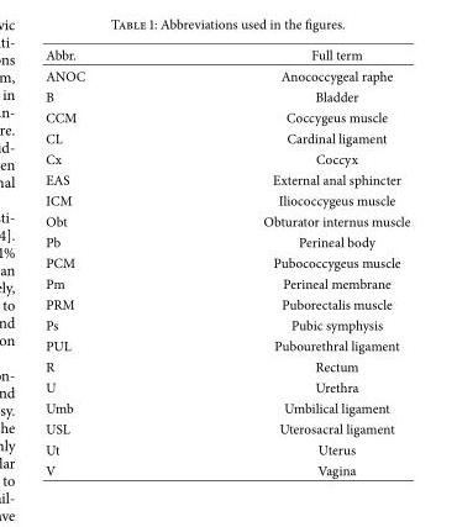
<table><thead><tr><td>Abbr.</td><td>Full term</td></tr></thead><tbody><tr><td>ANOC</td><td>Anococcygeal raphe</td></tr><tr><td>B</td><td>Bladder</td></tr><tr><td>CCM</td><td>Coccygeus muscle</td></tr><tr><td>CL</td><td>Cardinal ligament</td></tr><tr><td>Cx</td><td>Coccyx</td></tr><tr><td>EAS</td><td>External anal sphincter</td></tr><tr><td>ICM</td><td>Iliococcygeus muscle</td></tr><tr><td>Obt</td><td>Obturator internus muscle</td></tr><tr><td>Pb</td><td>Perineal body</td></tr><tr><td>PCM</td><td>Pubococcygeus muscle</td></tr><tr><td>Pm</td><td>Perineal membrane</td></tr><tr><td>PRM</td><td>Puborectalis muscle</td></tr><tr><td>Ps</td><td>Pubic symphysis</td></tr><tr><td>PUL</td><td>Pubourethral ligament</td></tr><tr><td>R</td><td>Rectum</td></tr><tr><td>U</td><td>Urethra</td></tr><tr><td>Umb</td><td>Umbilical ligament</td></tr><tr><td>USL</td><td>Uterosacral ligament</td></tr><tr><td>Ut</td><td>Uterus</td></tr><tr><td>V</td><td>Vagina</td></tr></tbody></table>